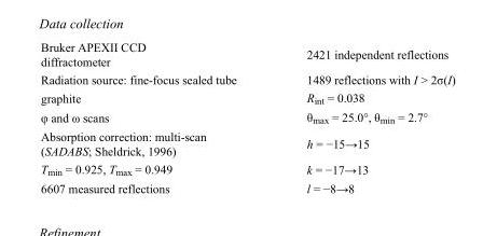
<table><tbody><tr><td>Bruker APEXII CCD diffractometer</td><td>2421 independent reflections</td></tr><tr><td>Radiation source: fine-focus sealed tube</td><td>1489 reflections with I &gt; 2σ(I)</td></tr><tr><td>graphite</td><td>R<sub>int</sub> = 0.038</td></tr><tr><td>φ and ω scans</td><td>θ<sub>max</sub> = 25.0°, θ<sub>min</sub> = 2.7°</td></tr><tr><td>Absorption correction: multi-scan (SADABS; Sheldrick, 1996)</td><td>h = −15→15</td></tr><tr><td>T<sub>min</sub> = 0.925, T<sub>max</sub> = 0.949</td><td>k = −17→13</td></tr><tr><td>6607 measured reflections</td><td>l = −8→8</td></tr></tbody></table>